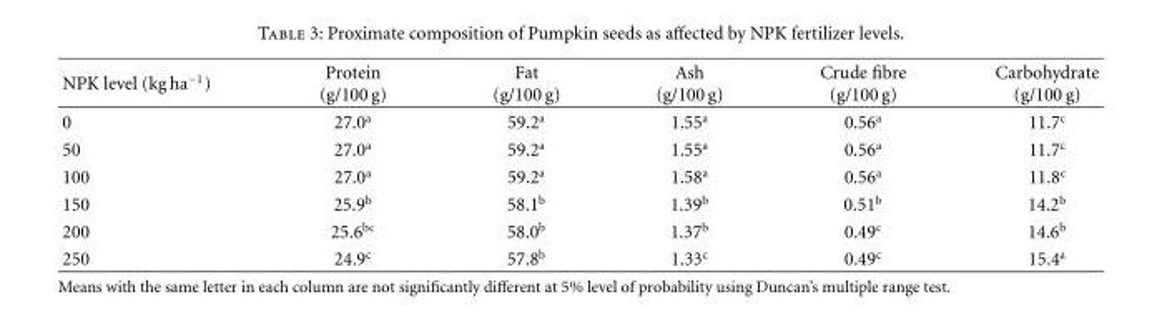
<table><thead><tr><td>NPK level (kg ha<sup>−1</sup>)</td><td>Protein (g/100 g)</td><td>Fat (g/100 g)</td><td>Ash (g/100 g)</td><td>Crude fibre (g/100 g)</td><td>Carbohydrate (g/100 g)</td></tr></thead><tbody><tr><td>0</td><td>27.0<sup>a</sup></td><td>59.2<sup>a</sup></td><td>1.55<sup>a</sup></td><td>0.56<sup>a</sup></td><td>11.7<sup>c</sup></td></tr><tr><td>50</td><td>27.0<sup>a</sup></td><td>59.2<sup>a</sup></td><td>1.55<sup>a</sup></td><td>0.56<sup>a</sup></td><td>11.7<sup>c</sup></td></tr><tr><td>100</td><td>27.0<sup>a</sup></td><td>59.2<sup>a</sup></td><td>1.58<sup>a</sup></td><td>0.56<sup>a</sup></td><td>11.8<sup>c</sup></td></tr><tr><td>150</td><td>25.9<sup>b</sup></td><td>58.1<sup>b</sup></td><td>1.39<sup>b</sup></td><td>0.51<sup>b</sup></td><td>14.2<sup>b</sup></td></tr><tr><td>200</td><td>25.6<sup>bc</sup></td><td>58.0<sup>b</sup></td><td>1.37<sup>b</sup></td><td>0.49<sup>c</sup></td><td>14.6<sup>b</sup></td></tr><tr><td>250</td><td>24.9<sup>c</sup></td><td>57.8<sup>b</sup></td><td>1.33<sup>c</sup></td><td>0.49<sup>c</sup></td><td>15.4<sup>a</sup></td></tr></tbody></table>